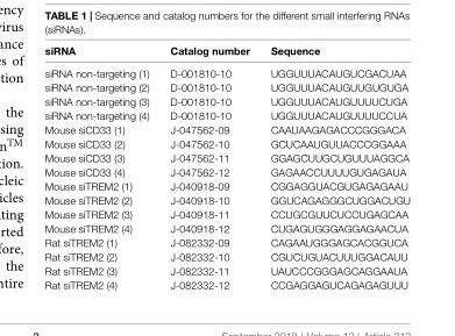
<table><thead><tr><td>siRNA</td><td>Catalog number</td><td>Sequence</td></tr></thead><tbody><tr><td>siRNA non-targeting (1)</td><td>D-001810-10</td><td>UGGUUUACAUGUCGACUAA</td></tr><tr><td>siRNA non-targeting (2)</td><td>D-001810-10</td><td>UGGUUUACAUGUUGUGUGA</td></tr><tr><td>siRNA non-targeting (3)</td><td>D-001810-10</td><td>UGGUUUACAUGUUUUCUGA</td></tr><tr><td>siRNA non-targeting (4)</td><td>D-001810-10</td><td>UGGUUUACAUGUUUUCCUA</td></tr><tr><td>Mouse siCD33 (1)</td><td>J-047562-09</td><td>CAAUAAGAGACCCGGGACA</td></tr><tr><td>Mouse siCD33 (2)</td><td>J-047562-10</td><td>GCUCAAUGUUACCCGGAAA</td></tr><tr><td>Mouse siCD33 (3)</td><td>J-047562-11</td><td>GGAGCUUGCUGUUUAGGCA</td></tr><tr><td>Mouse siCD33 (4)</td><td>J-047562-12</td><td>GAGAACCUUUUGUGAGAUA</td></tr><tr><td>Mouse siTREM2 (1)</td><td>J-040918-09</td><td>CGGAGGUACGUGAGAGAAU</td></tr><tr><td>Mouse siTREM2 (2)</td><td>J-040918-10</td><td>GGUCAGAGGGCUGGACUGU</td></tr><tr><td>Mouse siTREM2 (3)</td><td>J-040918-11</td><td>CCUGCGUUCUCCUGAGCAA</td></tr><tr><td>Mouse siTREM2 (4)</td><td>J-040918-12</td><td>CUGAGUGGGAGGAGAACUA</td></tr><tr><td>Rat siTREM2 (1)</td><td>J-082332-09</td><td>CAGAAUGGGAGCACGGUCA</td></tr><tr><td>Rat siTREM2 (2)</td><td>J-082332-10</td><td>CGUCUGUACUUUGGACAUU</td></tr><tr><td>Rat siTREM2 (3)</td><td>J-082332-11</td><td>UAUCCCGGGAGCAGGAAUA</td></tr><tr><td>Rat siTREM2 (4)</td><td>J-082332-12</td><td>CCGAGGAGUCAGAGAGUUU</td></tr></tbody></table>